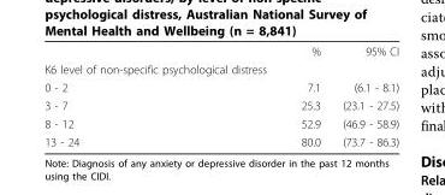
<table><thead><tr><td></td><td>%</td><td>95% CI</td></tr></thead><tbody><tr><td colspan="3">K6 level of non-specific psychological distress</td></tr><tr><td>0 - 2</td><td>7.1</td><td>(6.1 - 8.1)</td></tr><tr><td>3 - 7</td><td>25.3</td><td>(23.1 - 27.5)</td></tr><tr><td>8 - 12</td><td>52.9</td><td>(46.9 - 58.9)</td></tr><tr><td>13 - 24</td><td>80.0</td><td>(73.7 - 86.3)</td></tr></tbody></table>